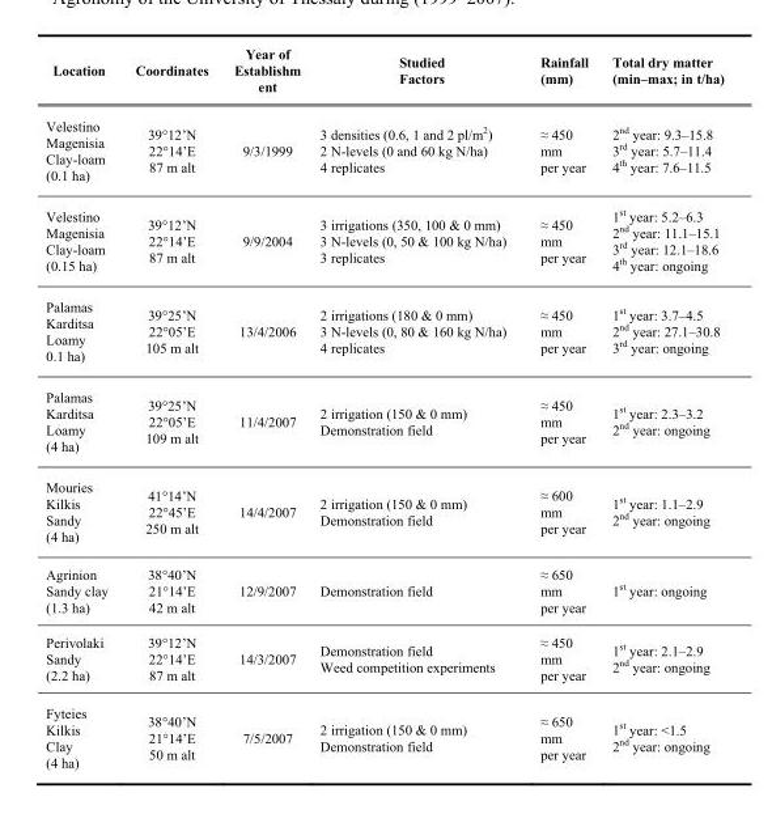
<table><thead><tr><td>Location</td><td>Coordinates</td><td>Year of Establishm ent</td><td>Studied Factors</td><td>Rainfall (mm)</td><td>Total dry matter (min–max; in t/ha)</td></tr></thead><tbody><tr><td>Velestino Magenisia Clay-loam (0.1 ha)</td><td>39°12’N 22°14’E 87 m alt</td><td>9/3/1999</td><td>3 densities (0.6, 1 and 2 pl/m<sup>2</sup>) 2 N-levels (0 and 60 kg N/ha) 4 replicates</td><td>≈ 450 mm per year</td><td>2<sup>nd</sup> year: 9.3–15.8 3<sup>rd</sup> year: 5.7–11.4 4<sup>th</sup> year: 7.6–11.5</td></tr><tr><td>Velestino Magenisia Clay-loam (0.15 ha)</td><td>39°12’N 22°14’E 87 m alt</td><td>9/9/2004</td><td>3 irrigations (350, 100 &amp; 0 mm) 3 N-levels (0, 50 &amp; 100 kg N/ha) 3 replicates</td><td>≈ 450 mm per year</td><td>1<sup>st</sup> year: 5.2–6.3 2<sup>nd</sup> year: 11.1–15.1 3<sup>rd</sup> year: 12.1–18.6 4<sup>th</sup> year: ongoing</td></tr><tr><td>Palamas Karditsa Loamy 0.1 ha)</td><td>39°25’N 22°05’E 105 m alt</td><td>13/4/2006</td><td>2 irrigations (180 &amp; 0 mm) 3 N-levels (0, 80 &amp; 160 kg N/ha) 4 replicates</td><td>≈ 450 mm per year</td><td>1<sup>st</sup> year: 3.7–4.5 2<sup>nd</sup> year: 27.1–30.8 3<sup>rd</sup> year: ongoing</td></tr><tr><td>Palamas Karditsa Loamy (4 ha)</td><td>39°25’N 22°05’E 109 m alt</td><td>11/4/2007</td><td>2 irrigation (150 &amp; 0 mm) Demonstration field</td><td>≈ 450 mm per year</td><td>1<sup>st</sup> year: 2.3–3.2 2<sup>nd</sup> year: ongoing</td></tr><tr><td>Mouries Kilkis Sandy (4 ha)</td><td>41°14’N 22°45’E 250 m alt</td><td>14/4/2007</td><td>2 irrigation (150 &amp; 0 mm) Demonstration field</td><td>≈ 600 mm per year</td><td>1<sup>st</sup> year: 1.1–2.9 2<sup>nd</sup> year: ongoing</td></tr><tr><td>Agrinion Sandy clay (1.3 ha)</td><td>38°40’N 21°14’E 42 m alt</td><td>12/9/2007</td><td>Demonstration field</td><td>≈ 650 mm per year</td><td>1<sup>st</sup> year: ongoing</td></tr><tr><td>Perivolaki Sandy (2.2 ha)</td><td>39°12’N 22°14’E 87 m alt</td><td>14/3/2007</td><td>Demonstration field Weed competition experiments</td><td>≈ 450 mm per year</td><td>1<sup>st</sup> year: 2.1–2.9 2<sup>nd</sup> year: ongoing</td></tr><tr><td>Fyteies Kilkis Clay (4 ha)</td><td>38°40’N 21°14’E 50 m alt</td><td>7/5/2007</td><td>2 irrigation (150 &amp; 0 mm) Demonstration field</td><td>≈ 650 mm per year</td><td>1<sup>st</sup> year: &lt;1.5 2<sup>nd</sup> year: ongoing</td></tr></tbody></table>